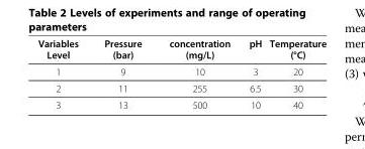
<table><thead><tr><td>Variables Level</td><td>Pressure (bar)</td><td>concentration (mg/L)</td><td>pH</td><td>Temperature (°C)</td></tr></thead><tbody><tr><td>1</td><td>9</td><td>10</td><td>3</td><td>20</td></tr><tr><td>2</td><td>11</td><td>255</td><td>6.5</td><td>30</td></tr><tr><td>3</td><td>13</td><td>500</td><td>10</td><td>40</td></tr></tbody></table>